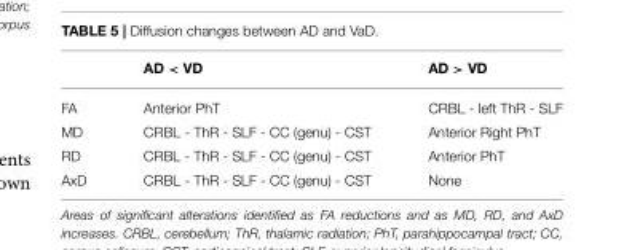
<table><thead><tr><td></td><td>AD &lt; VD</td><td>AD &gt; VD</td></tr></thead><tbody><tr><td>FA</td><td>Anterior PhT</td><td>CRBL - left ThR - SLF</td></tr><tr><td>MD</td><td>CRBL - ThR - SLF - CC (genu) - CST</td><td>Anterior Right PhT</td></tr><tr><td>RD</td><td>CRBL - ThR - SLF - CC (genu) - CST</td><td>Anterior PhT</td></tr><tr><td>AxD</td><td>CRBL - ThR - SLF - CC (genu) - CST</td><td>None</td></tr></tbody></table>